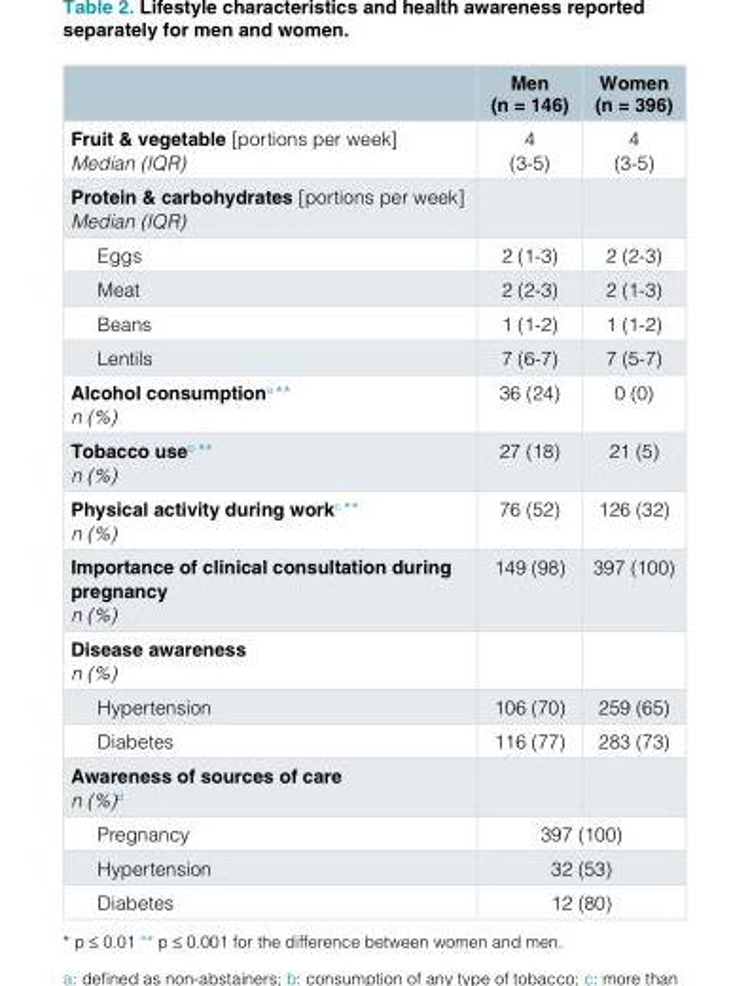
<table><thead><tr><td></td><td>Men (n = 146)</td><td>Women (n = 396)</td></tr></thead><tbody><tr><td>Fruit &amp; vegetable [portions per week] Median (IQR)</td><td>4 (3-5)</td><td>4 (3-5)</td></tr><tr><td colspan="3">Protein &amp; carbohydrates [portions per week] Median (IQR)</td></tr><tr><td>Eggs</td><td>2 (1-3)</td><td>2 (2-3)</td></tr><tr><td>Meat</td><td>2 (2-3)</td><td>2 (1-3)</td></tr><tr><td>Beans</td><td>1 (1-2)</td><td>1 (1-2)</td></tr><tr><td>Lentils</td><td>7 (6-7)</td><td>7 (5-7)</td></tr><tr><td>Alcohol consumption<sup>a</sup> ** n (%)</td><td>36 (24)</td><td>0 (0)</td></tr><tr><td>Tobacco use<sup>b</sup> ** n (%)</td><td>27 (18)</td><td>21 (5)</td></tr><tr><td>Physical activity during work<sup>c</sup> ** n (%)</td><td>76 (52)</td><td>126 (32)</td></tr><tr><td>Importance of clinical consultation during pregnancy n (%)</td><td>149 (98)</td><td>397 (100)</td></tr><tr><td colspan="3">Disease awareness n (%)</td></tr><tr><td>Hypertension</td><td>106 (70)</td><td>259 (65)</td></tr><tr><td>Diabetes</td><td>116 (77)</td><td>283 (73)</td></tr><tr><td colspan="3">Awareness of sources of care n (%)<sup>d</sup></td></tr><tr><td>Pregnancy</td><td colspan="2">397 (100)</td></tr><tr><td>Hypertension</td><td colspan="2">32 (53)</td></tr><tr><td>Diabetes</td><td colspan="2">12 (80)</td></tr></tbody></table>